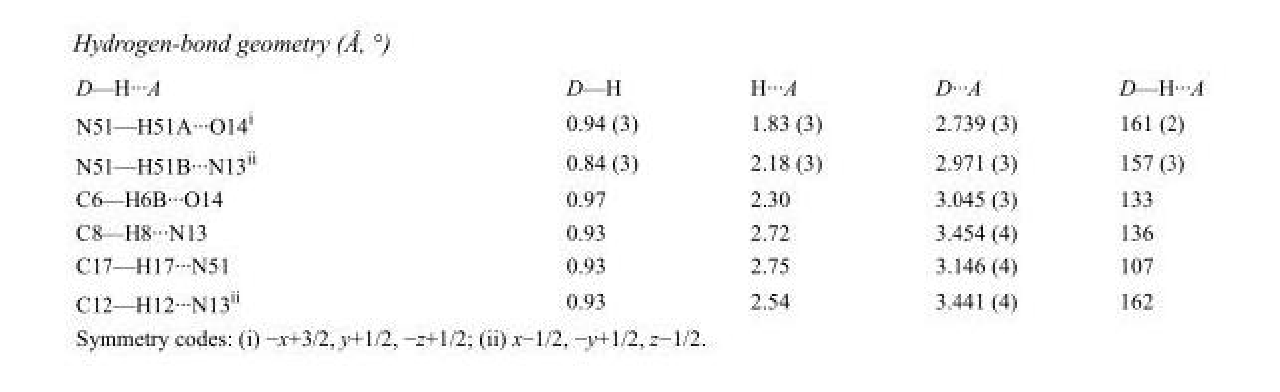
<table><tbody><tr><td>D—H···A</td><td>D—H</td><td>H···A</td><td>D···A</td><td>D—H···A</td></tr><tr><td>N51—H51A···O14<sup>i</sup></td><td>0.94 (3)</td><td>1.83 (3)</td><td>2.739 (3)</td><td>161 (2)</td></tr><tr><td>N51—H51B···N13<sup>ii</sup></td><td>0.84 (3)</td><td>2.18 (3)</td><td>2.971 (3)</td><td>157 (3)</td></tr><tr><td>C6—H6B···O14</td><td>0.97</td><td>2.30</td><td>3.045 (3)</td><td>133</td></tr><tr><td>C8—H8···N13</td><td>0.93</td><td>2.72</td><td>3.454 (4)</td><td>136</td></tr><tr><td>C17—H17···N51</td><td>0.93</td><td>2.75</td><td>3.146 (4)</td><td>107</td></tr><tr><td>C12—H12···N13<sup>ii</sup></td><td>0.93</td><td>2.54</td><td>3.441 (4)</td><td>162</td></tr></tbody></table>